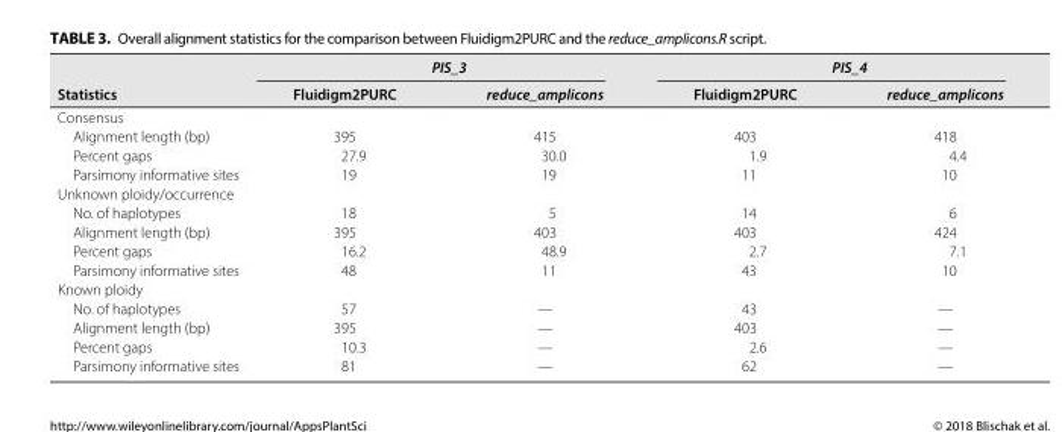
<table><thead><tr><td rowspan="2">Statistics</td><td colspan="2">PIS_3</td><td colspan="2">PIS_4</td></tr><tr><td>Fluidigm2PURC</td><td>reduce_amplicons</td><td>Fluidigm2PURC</td><td>reduce_amplicons</td></tr></thead><tbody><tr><td colspan="5">Consensus</td></tr><tr><td>Alignment length (bp)</td><td>395</td><td>415</td><td>403</td><td>418</td></tr><tr><td>Percent gaps</td><td>27.9</td><td>30.0</td><td>1.9</td><td>4.4</td></tr><tr><td>Parsimony informative sites</td><td>19</td><td>19</td><td>11</td><td>10</td></tr><tr><td colspan="5">Unknown ploidy/occurrence</td></tr><tr><td>No. of haplotypes</td><td>18</td><td>5</td><td>14</td><td>6</td></tr><tr><td>Alignment length (bp)</td><td>395</td><td>403</td><td>403</td><td>424</td></tr><tr><td>Percent gaps</td><td>16.2</td><td>48.9</td><td>2.7</td><td>7.1</td></tr><tr><td>Parsimony informative sites</td><td>48</td><td>11</td><td>43</td><td>10</td></tr><tr><td colspan="5">Known ploidy</td></tr><tr><td>No. of haplotypes</td><td>57</td><td>—</td><td>43</td><td>—</td></tr><tr><td>Alignment length (bp)</td><td>395</td><td>—</td><td>403</td><td>—</td></tr><tr><td>Percent gaps</td><td>10.3</td><td>—</td><td>2.6</td><td>—</td></tr><tr><td>Parsimony informative sites</td><td>81</td><td>—</td><td>62</td><td>—</td></tr></tbody></table>